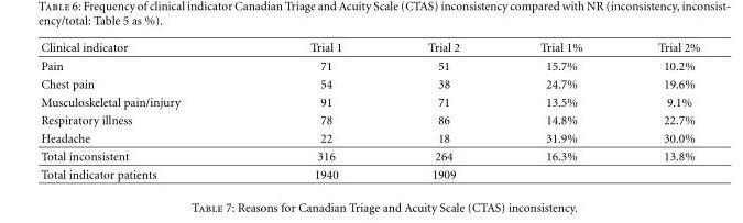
<table><thead><tr><td>Clinical indicator</td><td>Trial 1</td><td>Trial 2</td><td>Trial 1%</td><td>Trial 2%</td></tr></thead><tbody><tr><td>Pain</td><td>71</td><td>51</td><td>15.7%</td><td>10.2%</td></tr><tr><td>Chest pain</td><td>54</td><td>38</td><td>24.7%</td><td>19.6%</td></tr><tr><td>Musculoskeletal pain/injury</td><td>91</td><td>71</td><td>13.5%</td><td>9.1%</td></tr><tr><td>Respiratory illness</td><td>78</td><td>86</td><td>14.8%</td><td>22.7%</td></tr><tr><td>Headache</td><td>22</td><td>18</td><td>31.9%</td><td>30.0%</td></tr><tr><td>Total inconsistent</td><td>316</td><td>264</td><td>16.3%</td><td>13.8%</td></tr><tr><td>Total indicator patients</td><td>1940</td><td>1909</td><td></td><td></td></tr></tbody></table>